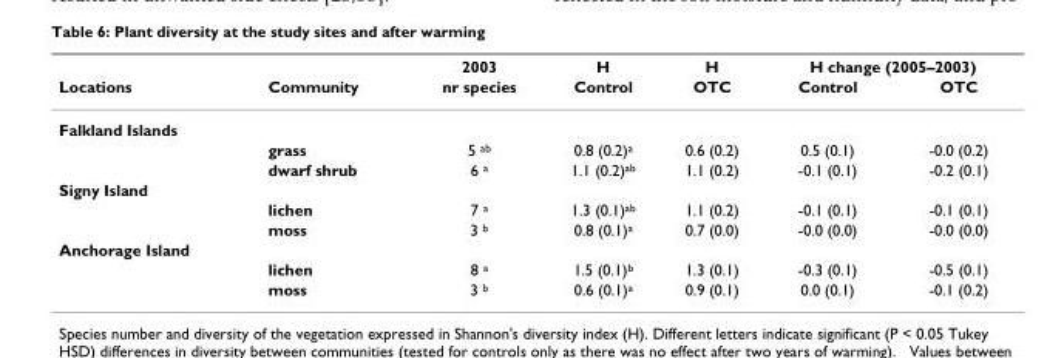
<table><thead><tr><td rowspan="2">Locations</td><td rowspan="2">Community</td><td rowspan="2">2003 nr species</td><td rowspan="2">H Control</td><td rowspan="2">H OTC</td><td colspan="2">H change (2005–2003)</td></tr><tr><td>Control</td><td>OTC</td></tr></thead><tbody><tr><td colspan="7">Falkland Islands</td></tr><tr><td></td><td>grass</td><td>5 <sup>ab</sup></td><td>0.8 (0.2)<sup>a</sup></td><td>0.6 (0.2)</td><td>0.5 (0.1)</td><td>-0.0 (0.2)</td></tr><tr><td></td><td>dwarf shrub</td><td>6 <sup>a</sup></td><td>1.1 (0.2)<sup>ab</sup></td><td>1.1 (0.2)</td><td>-0.1 (0.1)</td><td>-0.2 (0.1)</td></tr><tr><td colspan="7">Signy Island</td></tr><tr><td></td><td>lichen</td><td>7 <sup>a</sup></td><td>1.3 (0.1)<sup>ab</sup></td><td>1.1 (0.2)</td><td>-0.1 (0.1)</td><td>-0.1 (0.1)</td></tr><tr><td></td><td>moss</td><td>3 <sup>b</sup></td><td>0.8 (0.1)<sup>a</sup></td><td>0.7 (0.0)</td><td>-0.0 (0.0)</td><td>-0.0 (0.0)</td></tr><tr><td colspan="7">Anchorage Island</td></tr><tr><td></td><td>lichen</td><td>8 <sup>a</sup></td><td>1.5 (0.1)<sup>b</sup></td><td>1.3 (0.1)</td><td>-0.3 (0.1)</td><td>-0.5 (0.1)</td></tr><tr><td></td><td>moss</td><td>3 <sup>b</sup></td><td>0.6 (0.1)<sup>a</sup></td><td>0.9 (0.1)</td><td>0.0 (0.1)</td><td>-0.1 (0.2)</td></tr></tbody></table>